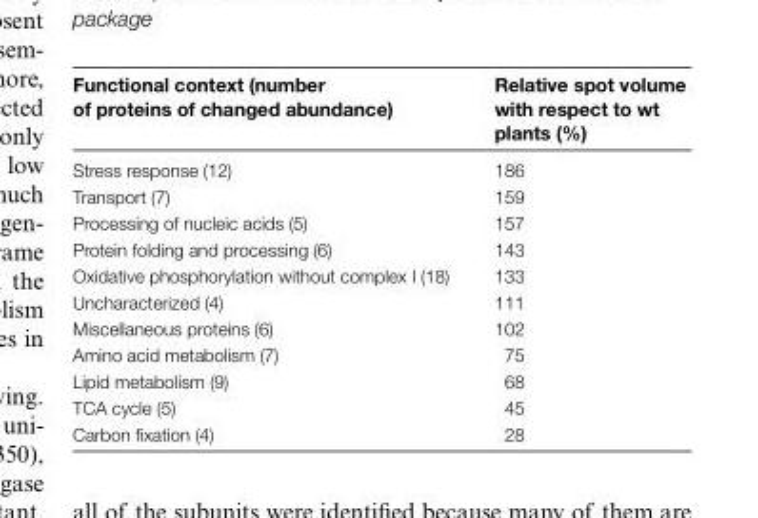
<table><thead><tr><td>Functional context (number of proteins of changed abundance)</td><td>Relative spot volume with respect to wt plants (%)</td></tr></thead><tbody><tr><td>Stress response (12)</td><td>186</td></tr><tr><td>Transport (7)</td><td>159</td></tr><tr><td>Processing of nucleic acids (5)</td><td>157</td></tr><tr><td>Protein folding and processing (6)</td><td>143</td></tr><tr><td>Oxidative phosphorylation without complex I (18)</td><td>133</td></tr><tr><td>Uncharacterized (4)</td><td>111</td></tr><tr><td>Miscellaneous proteins (6)</td><td>102</td></tr><tr><td>Amino acid metabolism (7)</td><td>75</td></tr><tr><td>Lipid metabolism (9)</td><td>68</td></tr><tr><td>TCA cycle (5)</td><td>45</td></tr><tr><td>Carbon fixation (4)</td><td>28</td></tr></tbody></table>